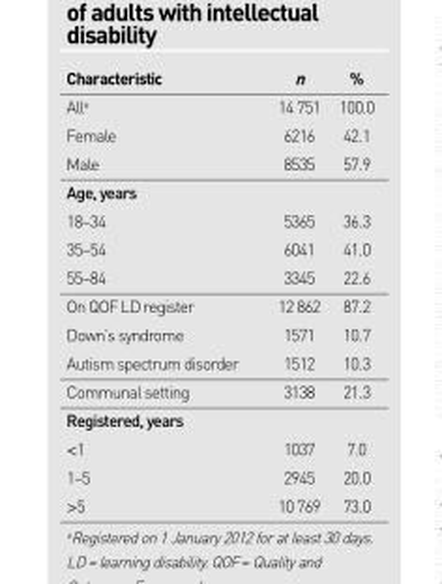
<table><thead><tr><td>Characteristic</td><td>n</td><td>%</td></tr></thead><tbody><tr><td>All<sup>a</sup></td><td>14 751</td><td>100.0</td></tr><tr><td>Female</td><td>6216</td><td>42.1</td></tr><tr><td>Male</td><td>8535</td><td>57.9</td></tr><tr><td colspan="3">Age, years</td></tr><tr><td>18–34</td><td>5365</td><td>36.3</td></tr><tr><td>35–54</td><td>6041</td><td>41.0</td></tr><tr><td>55–84</td><td>3345</td><td>22.6</td></tr><tr><td>On QOF LD register</td><td>12 862</td><td>87.2</td></tr><tr><td>Down’s syndrome</td><td>1571</td><td>10.7</td></tr><tr><td>Autism spectrum disorder</td><td>1512</td><td>10.3</td></tr><tr><td>Communal setting</td><td>3138</td><td>21.3</td></tr><tr><td colspan="3">Registered, years</td></tr><tr><td>&lt;1</td><td>1037</td><td>7.0</td></tr><tr><td>1–5</td><td>2945</td><td>20.0</td></tr><tr><td>&gt;5</td><td>10 769</td><td>73.0</td></tr></tbody></table>